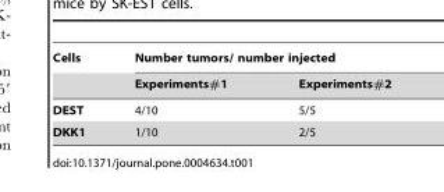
<table><thead><tr><td rowspan="2">Cells</td><td colspan="2">Number tumors/ number injected</td></tr><tr><td>Experiments#1</td><td>Experiments#2</td></tr></thead><tbody><tr><td>DEST</td><td>4/10</td><td>5/5</td></tr><tr><td>DKK1</td><td>1/10</td><td>2/5</td></tr></tbody></table>